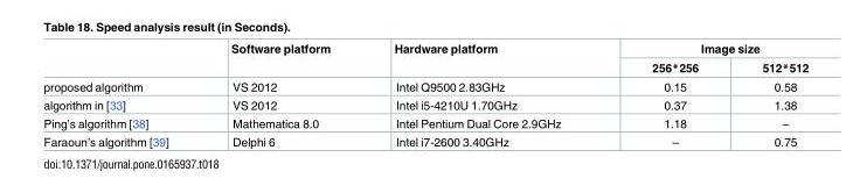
<table><thead><tr><td rowspan="2"></td><td rowspan="2">Software platform</td><td rowspan="2">Hardware platform</td><td colspan="2">Image size</td></tr><tr><td>256*256</td><td>512*512</td></tr></thead><tbody><tr><td>proposed algorithm</td><td>VS 2012</td><td>Intel Q9500 2.83GHz</td><td>0.15</td><td>0.58</td></tr><tr><td>algorithm in [33]</td><td>VS 2012</td><td>Intel i5-4210U 1.70GHz</td><td>0.37</td><td>1.38</td></tr><tr><td>Ping’s algorithm [38]</td><td>Mathematica 8.0</td><td>Intel Pentium Dual Core 2.9GHz</td><td>1.18</td><td>–</td></tr><tr><td>Faraoun’s algorithm [39]</td><td>Delphi 6</td><td>Intel i7-2600 3.40GHz</td><td>–</td><td>0.75</td></tr></tbody></table>